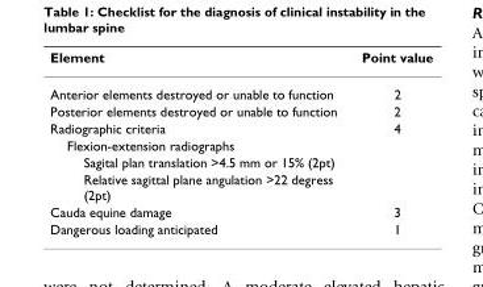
<table><thead><tr><td>Element</td><td>Point value</td></tr></thead><tbody><tr><td>Anterior elements destroyed or unable to function</td><td>2</td></tr><tr><td>Posterior elements destroyed or unable to function</td><td>2</td></tr><tr><td>Radiographic criteria</td><td>4</td></tr><tr><td colspan="2">Flexion-extension radiographs</td></tr><tr><td colspan="2">Sagital plan translation &gt;4.5 mm or 15% (2pt)</td></tr><tr><td colspan="2">Relative sagittal plane angulation &gt;22 degress (2pt)</td></tr><tr><td>Cauda equine damage</td><td>3</td></tr><tr><td>Dangerous loading anticipated</td><td>1</td></tr></tbody></table>